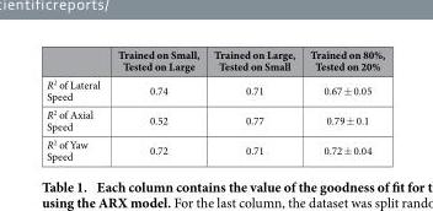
<table><thead><tr><td></td><td>Trained on Small, Tested on Large</td><td>Trained on Large, Tested on Small</td><td>Trained on 80%, Tested on 20%</td></tr></thead><tbody><tr><td>R<sup>2</sup> of Lateral Speed</td><td>0.74</td><td>0.71</td><td>0.67 ± 0.05</td></tr><tr><td>R<sup>2</sup> of Axial Speed</td><td>0.52</td><td>0.77</td><td>0.79 ± 0.1</td></tr><tr><td>R<sup>2</sup> of Yaw Speed</td><td>0.72</td><td>0.71</td><td>0.72 ± 0.04</td></tr></tbody></table>